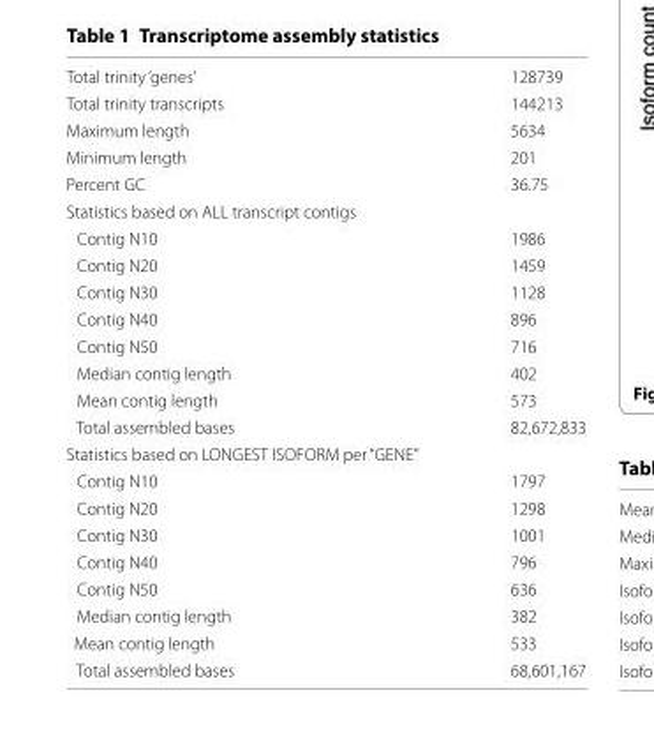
<table><tbody><tr><td>Total trinity ‘genes’</td><td>128739</td></tr><tr><td>Total trinity transcripts</td><td>144213</td></tr><tr><td>Maximum length</td><td>5634</td></tr><tr><td>Minimum length</td><td>201</td></tr><tr><td>Percent GC</td><td>36.75</td></tr><tr><td colspan="2">Statistics based on ALL transcript contigs</td></tr><tr><td>Contig N10</td><td>1986</td></tr><tr><td>Contig N20</td><td>1459</td></tr><tr><td>Contig N30</td><td>1128</td></tr><tr><td>Contig N40</td><td>896</td></tr><tr><td>Contig N50</td><td>716</td></tr><tr><td>Median contig length</td><td>402</td></tr><tr><td>Mean contig length</td><td>573</td></tr><tr><td>Total assembled bases</td><td>82,672,833</td></tr><tr><td colspan="2">Statistics based on LONGEST ISOFORM per “GENE”</td></tr><tr><td>Contig N10</td><td>1797</td></tr><tr><td>Contig N20</td><td>1298</td></tr><tr><td>Contig N30</td><td>1001</td></tr><tr><td>Contig N40</td><td>796</td></tr><tr><td>Contig N50</td><td>636</td></tr><tr><td>Median contig length</td><td>382</td></tr><tr><td>Mean contig length</td><td>533</td></tr><tr><td>Total assembled bases</td><td>68,601,167</td></tr></tbody></table>